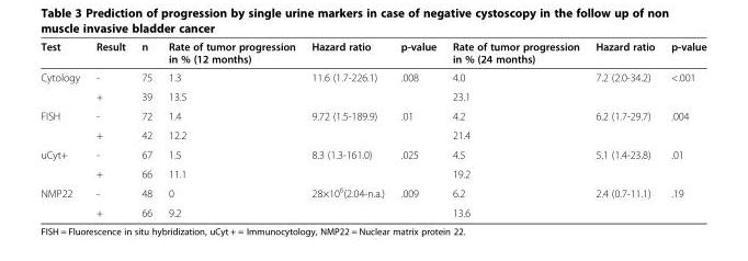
<table><thead><tr><td>Test</td><td>Result</td><td>n</td><td>Rate of tumor progression in % (12 months)</td><td>Hazard ratio</td><td>p-value</td><td>Rate of tumor progression in % (24 months)</td><td>Hazard ratio</td><td>p-value</td></tr></thead><tbody><tr><td rowspan="2">Cytology</td><td>-</td><td>75</td><td>1.3</td><td rowspan="2">11.6 (1.7-226.1)</td><td rowspan="2">.008</td><td>4.0</td><td rowspan="2">7.2 (2.0-34.2)</td><td rowspan="2">&lt;.001</td></tr><tr><td>+</td><td>39</td><td>13.5</td><td>23.1</td></tr><tr><td rowspan="2">FISH</td><td>-</td><td>72</td><td>1.4</td><td rowspan="2">9.72 (1.5-189.9)</td><td rowspan="2">.01</td><td>4.2</td><td rowspan="2">6.2 (1.7-29.7)</td><td rowspan="2">.004</td></tr><tr><td>+</td><td>42</td><td>12.2</td><td>21.4</td></tr><tr><td rowspan="2">uCyt+</td><td>-</td><td>67</td><td>1.5</td><td rowspan="2">8.3 (1.3-161.0)</td><td rowspan="2">.025</td><td>4.5</td><td rowspan="2">5.1 (1.4-23.8)</td><td rowspan="2">.01</td></tr><tr><td>+</td><td>66</td><td>11.1</td><td>19.2</td></tr><tr><td rowspan="2">NMP22</td><td>-</td><td>48</td><td>0</td><td rowspan="2">28×10<sup>6</sup>(2.04-n.a.)</td><td rowspan="2">.009</td><td>6.2</td><td rowspan="2">2.4 (0.7-11.1)</td><td rowspan="2">.19</td></tr><tr><td>+</td><td>66</td><td>9.2</td><td>13.6</td></tr></tbody></table>